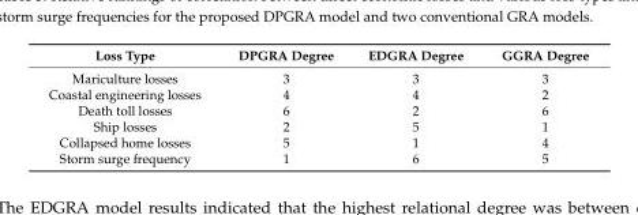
<table><thead><tr><td>Loss Type</td><td>DPGRA Degree</td><td>EDGRA Degree</td><td>GGRA Degree</td></tr></thead><tbody><tr><td>Mariculture losses</td><td>3</td><td>3</td><td>3</td></tr><tr><td>Coastal engineering losses</td><td>4</td><td>4</td><td>2</td></tr><tr><td>Death toll losses</td><td>6</td><td>2</td><td>6</td></tr><tr><td>Ship losses</td><td>2</td><td>5</td><td>1</td></tr><tr><td>Collapsed home losses</td><td>5</td><td>1</td><td>4</td></tr><tr><td>Storm surge frequency</td><td>1</td><td>6</td><td>5</td></tr></tbody></table>